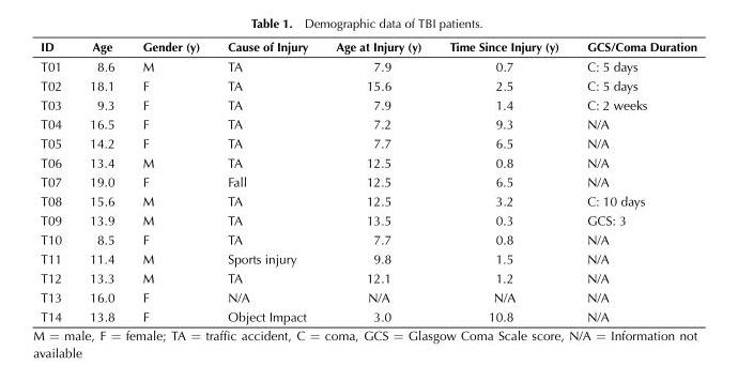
<table><thead><tr><td>ID</td><td>Age</td><td>Gender (y)</td><td>Cause of Injury</td><td>Age at Injury (y)</td><td>Time Since Injury (y)</td><td>GCS/Coma Duration</td></tr></thead><tbody><tr><td>T01</td><td>8.6</td><td>M</td><td>TA</td><td>7.9</td><td>0.7</td><td>C: 5 days</td></tr><tr><td>T02</td><td>18.1</td><td>F</td><td>TA</td><td>15.6</td><td>2.5</td><td>C: 5 days</td></tr><tr><td>T03</td><td>9.3</td><td>F</td><td>TA</td><td>7.9</td><td>1.4</td><td>C: 2 weeks</td></tr><tr><td>T04</td><td>16.5</td><td>F</td><td>TA</td><td>7.2</td><td>9.3</td><td>N/A</td></tr><tr><td>T05</td><td>14.2</td><td>F</td><td>TA</td><td>7.7</td><td>6.5</td><td>N/A</td></tr><tr><td>T06</td><td>13.4</td><td>M</td><td>TA</td><td>12.5</td><td>0.8</td><td>N/A</td></tr><tr><td>T07</td><td>19.0</td><td>F</td><td>Fall</td><td>12.5</td><td>6.5</td><td>N/A</td></tr><tr><td>T08</td><td>15.6</td><td>M</td><td>TA</td><td>12.5</td><td>3.2</td><td>C: 10 days</td></tr><tr><td>T09</td><td>13.9</td><td>M</td><td>TA</td><td>13.5</td><td>0.3</td><td>GCS: 3</td></tr><tr><td>T10</td><td>8.5</td><td>F</td><td>TA</td><td>7.7</td><td>0.8</td><td>N/A</td></tr><tr><td>T11</td><td>11.4</td><td>M</td><td>Sports injury</td><td>9.8</td><td>1.5</td><td>N/A</td></tr><tr><td>T12</td><td>13.3</td><td>M</td><td>TA</td><td>12.1</td><td>1.2</td><td>N/A</td></tr><tr><td>T13</td><td>16.0</td><td>F</td><td>N/A</td><td>N/A</td><td>N/A</td><td>N/A</td></tr><tr><td>T14</td><td>13.8</td><td>F</td><td>Object Impact</td><td>3.0</td><td>10.8</td><td>N/A</td></tr></tbody></table>